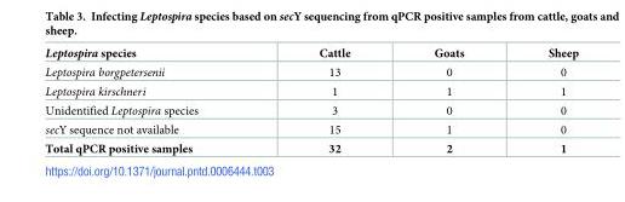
<table><thead><tr><td>Leptospira species</td><td>Cattle</td><td>Goats</td><td>Sheep</td></tr></thead><tbody><tr><td>Leptospira borgpetersenii</td><td>13</td><td>0</td><td>0</td></tr><tr><td>Leptospira kirschneri</td><td>1</td><td>1</td><td>1</td></tr><tr><td>Unidentified Leptospira species</td><td>3</td><td>0</td><td>0</td></tr><tr><td>secY sequence not available</td><td>15</td><td>1</td><td>0</td></tr><tr><td>Total qPCR positive samples</td><td>32</td><td>2</td><td>1</td></tr></tbody></table>